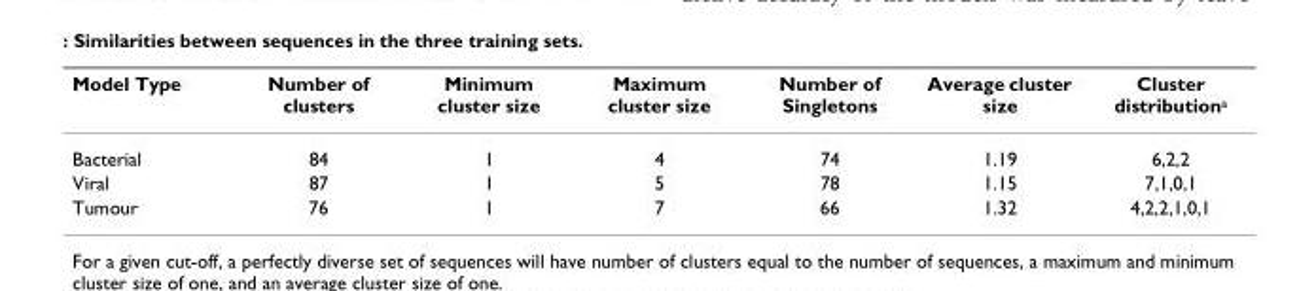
<table><thead><tr><td>Model Type</td><td>Number of clusters</td><td>Minimum cluster size</td><td>Maximum cluster size</td><td>Number of Singletons</td><td>Average cluster size</td><td>Cluster distribution<sup>a</sup></td></tr></thead><tbody><tr><td>Bacterial</td><td>84</td><td>1</td><td>4</td><td>74</td><td>1.19</td><td>6,2,2</td></tr><tr><td>Viral</td><td>87</td><td>1</td><td>5</td><td>78</td><td>1.15</td><td>7,1,0,1</td></tr><tr><td>Tumour</td><td>76</td><td>1</td><td>7</td><td>66</td><td>1.32</td><td>4,2,2,1,0,1</td></tr></tbody></table>